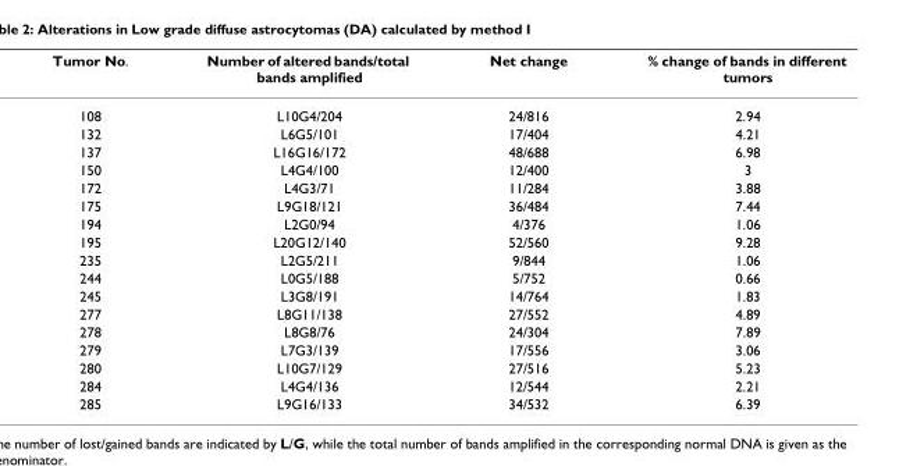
<table><thead><tr><td>Tumor No.</td><td>Number of altered bands/total bands amplified</td><td>Net change</td><td>% change of bands in different tumors</td></tr></thead><tbody><tr><td>108</td><td>L10G4/204</td><td>24/816</td><td>2.94</td></tr><tr><td>132</td><td>L6G5/101</td><td>17/404</td><td>4.21</td></tr><tr><td>137</td><td>L16G16/172</td><td>48/688</td><td>6.98</td></tr><tr><td>150</td><td>L4G4/100</td><td>12/400</td><td>3</td></tr><tr><td>172</td><td>L4G3/71</td><td>11/284</td><td>3.88</td></tr><tr><td>175</td><td>L9G18/121</td><td>36/484</td><td>7.44</td></tr><tr><td>194</td><td>L2G0/94</td><td>4/376</td><td>1.06</td></tr><tr><td>195</td><td>L20G12/140</td><td>52/560</td><td>9.28</td></tr><tr><td>235</td><td>L2G5/211</td><td>9/844</td><td>1.06</td></tr><tr><td>244</td><td>L0G5/188</td><td>5/752</td><td>0.66</td></tr><tr><td>245</td><td>L3G8/191</td><td>14/764</td><td>1.83</td></tr><tr><td>277</td><td>L8G11/138</td><td>27/552</td><td>4.89</td></tr><tr><td>278</td><td>L8G8/76</td><td>24/304</td><td>7.89</td></tr><tr><td>279</td><td>L7G3/139</td><td>17/556</td><td>3.06</td></tr><tr><td>280</td><td>L10G7/129</td><td>27/516</td><td>5.23</td></tr><tr><td>284</td><td>L4G4/136</td><td>12/544</td><td>2.21</td></tr><tr><td>285</td><td>L9G16/133</td><td>34/532</td><td>6.39</td></tr></tbody></table>